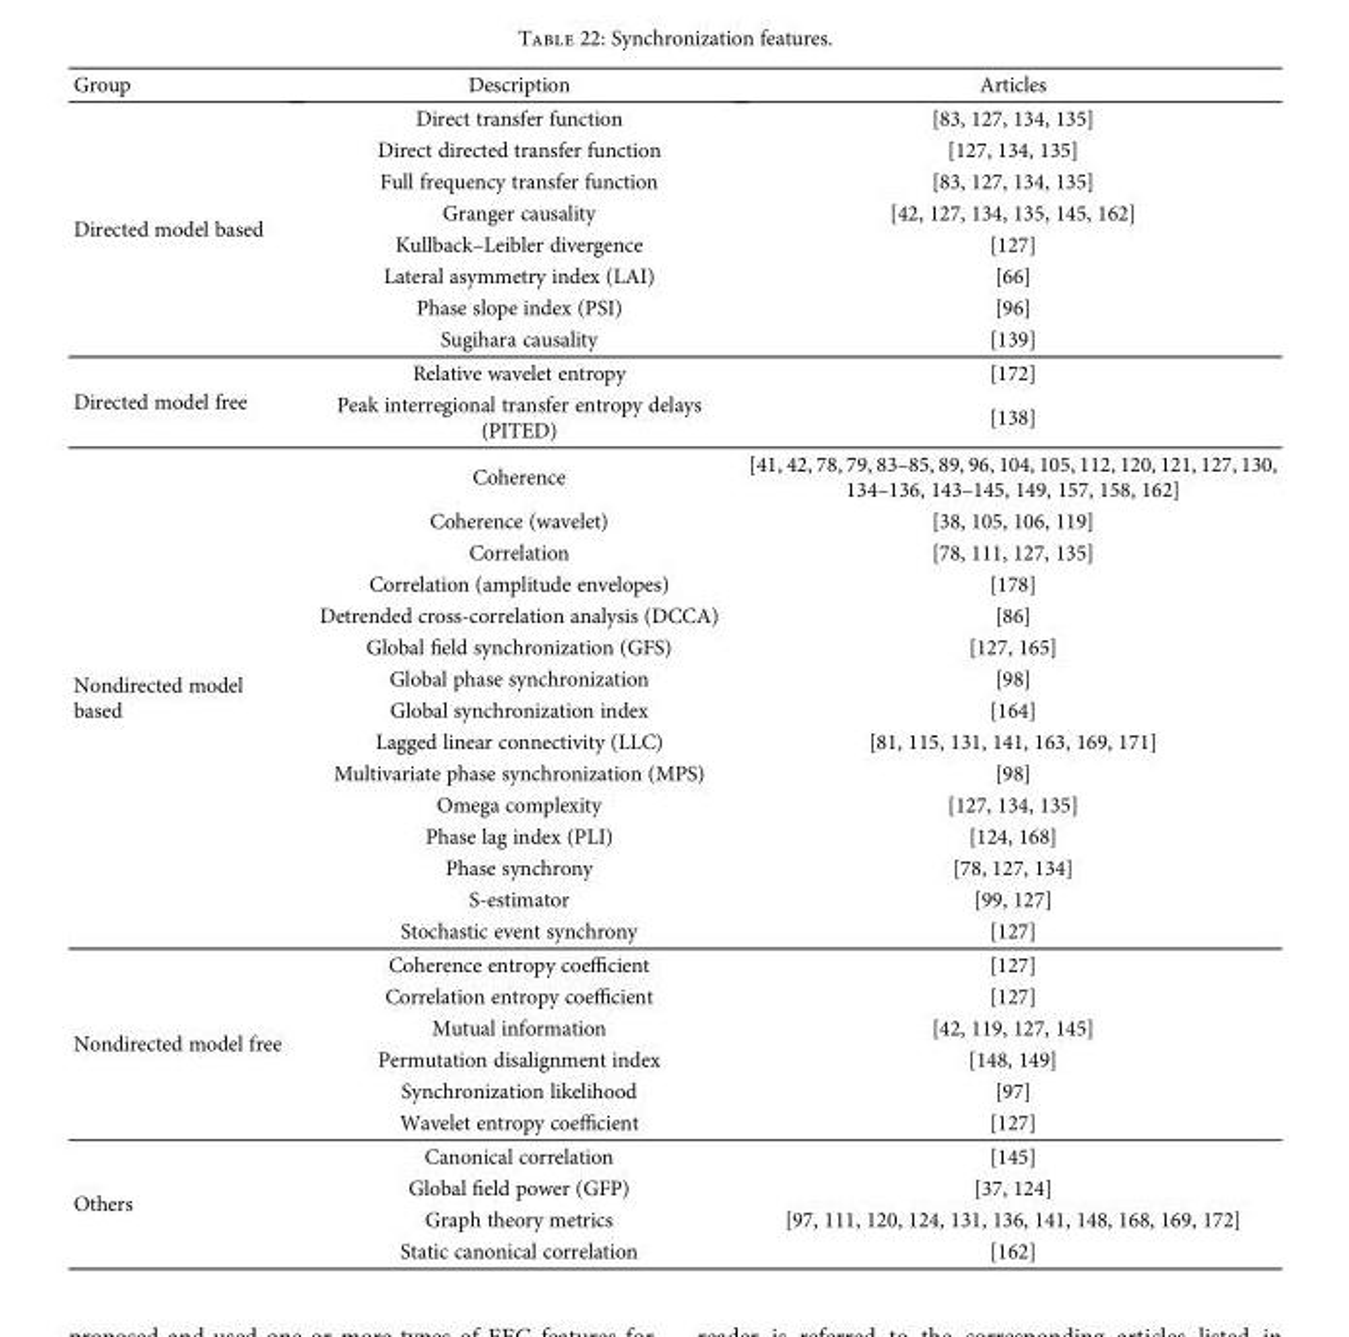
<table><thead><tr><td>Group</td><td>Description</td><td>Articles</td></tr></thead><tbody><tr><td rowspan="8">Directed model based</td><td>Direct transfer function</td><td>[83, 127, 134, 135]</td></tr><tr><td>Direct directed transfer function</td><td>[127, 134, 135]</td></tr><tr><td>Full frequency transfer function</td><td>[83, 127, 134, 135]</td></tr><tr><td>Granger causality</td><td>[42, 127, 134, 135, 145, 162]</td></tr><tr><td>Kullback–Leibler divergence</td><td>[127]</td></tr><tr><td>Lateral asymmetry index (LAI)</td><td>[66]</td></tr><tr><td>Phase slope index (PSI)</td><td>[96]</td></tr><tr><td>Sugihara causality</td><td>[139]</td></tr><tr><td rowspan="2">Directed model free</td><td>Relative wavelet entropy</td><td>[172]</td></tr><tr><td>Peak interregional transfer entropy delays (PITED)</td><td>[138]</td></tr><tr><td rowspan="15">Nondirected model based</td><td>Coherence</td><td>[41, 42, 78, 79, 83–85, 89, 96, 104, 105, 112, 120, 121, 127, 130, 134–136, 143–145, 149, 157, 158, 162]</td></tr><tr><td>Coherence (wavelet)</td><td>[38, 105, 106, 119]</td></tr><tr><td>Correlation</td><td>[78, 111, 127, 135]</td></tr><tr><td>Correlation (amplitude envelopes)</td><td>[178]</td></tr><tr><td>Detrended cross-correlation analysis (DCCA)</td><td>[86]</td></tr><tr><td>Global field synchronization (GFS)</td><td>[127, 165]</td></tr><tr><td>Global phase synchronization</td><td>[98]</td></tr><tr><td>Global synchronization index</td><td>[164]</td></tr><tr><td>Lagged linear connectivity (LLC)</td><td>[81, 115, 131, 141, 163, 169, 171]</td></tr><tr><td>Multivariate phase synchronization (MPS)</td><td>[98]</td></tr><tr><td>Omega complexity</td><td>[127, 134, 135]</td></tr><tr><td>Phase lag index (PLI)</td><td>[124, 168]</td></tr><tr><td>Phase synchrony</td><td>[78, 127, 134]</td></tr><tr><td>S-estimator</td><td>[99, 127]</td></tr><tr><td>Stochastic event synchrony</td><td>[127]</td></tr><tr><td rowspan="6">Nondirected model free</td><td>Coherence entropy coefficient</td><td>[127]</td></tr><tr><td>Correlation entropy coefficient</td><td>[127]</td></tr><tr><td>Mutual information</td><td>[42, 119, 127, 145]</td></tr><tr><td>Permutation disalignment index</td><td>[148, 149]</td></tr><tr><td>Synchronization likelihood</td><td>[97]</td></tr><tr><td>Wavelet entropy coefficient</td><td>[127]</td></tr><tr><td rowspan="4">Others</td><td>Canonical correlation</td><td>[145]</td></tr><tr><td>Global field power (GFP)</td><td>[37, 124]</td></tr><tr><td>Graph theory metrics</td><td>[97, 111, 120, 124, 131, 136, 141, 148, 168, 169, 172]</td></tr><tr><td>Static canonical correlation</td><td>[162]</td></tr></tbody></table>